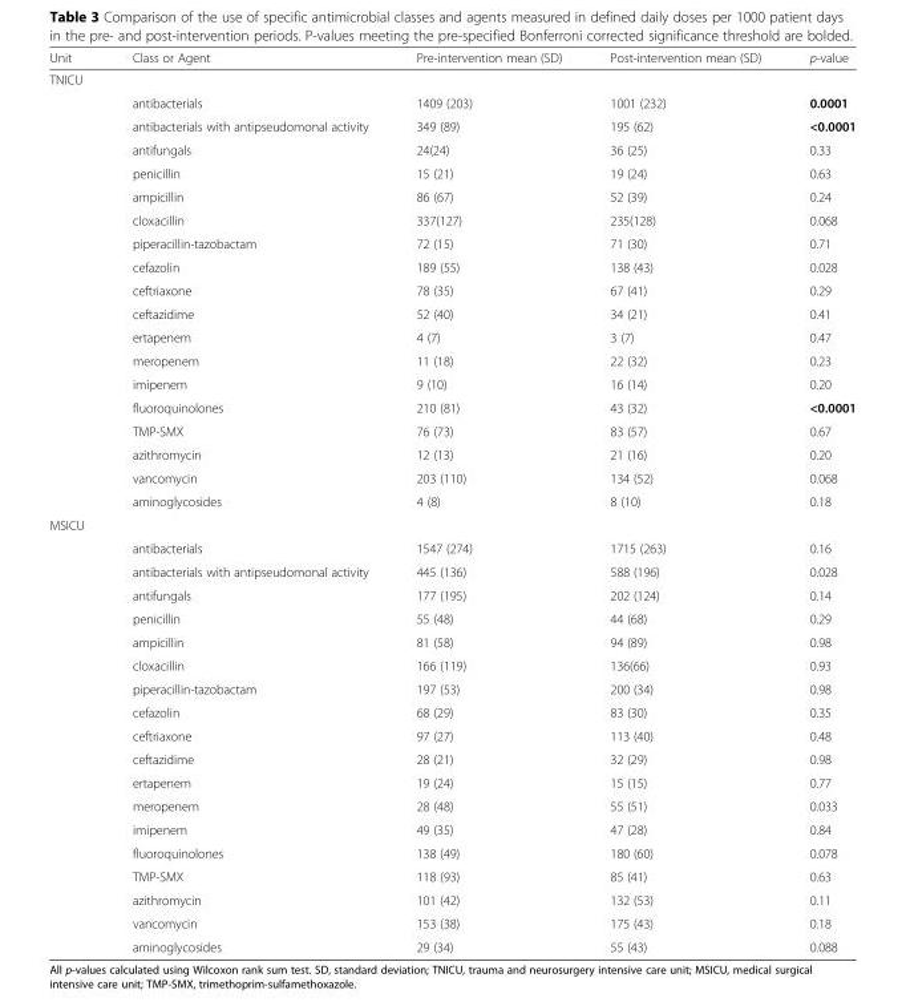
<table><thead><tr><td>Unit</td><td>Class or Agent</td><td>Pre-intervention mean (SD)</td><td>Post-intervention mean (SD)</td><td>p-value</td></tr></thead><tbody><tr><td colspan="5">TNICU</td></tr><tr><td></td><td>antibacterials</td><td>1409 (203)</td><td>1001 (232)</td><td>0.0001</td></tr><tr><td></td><td>antibacterials with antipseudomonal activity</td><td>349 (89)</td><td>195 (62)</td><td>&lt;0.0001</td></tr><tr><td></td><td>antifungals</td><td>24(24)</td><td>36 (25)</td><td>0.33</td></tr><tr><td></td><td>penicillin</td><td>15 (21)</td><td>19 (24)</td><td>0.63</td></tr><tr><td></td><td>ampicillin</td><td>86 (67)</td><td>52 (39)</td><td>0.24</td></tr><tr><td></td><td>cloxacillin</td><td>337(127)</td><td>235(128)</td><td>0.068</td></tr><tr><td></td><td>piperacillin-tazobactam</td><td>72 (15)</td><td>71 (30)</td><td>0.71</td></tr><tr><td></td><td>cefazolin</td><td>189 (55)</td><td>138 (43)</td><td>0.028</td></tr><tr><td></td><td>ceftriaxone</td><td>78 (35)</td><td>67 (41)</td><td>0.29</td></tr><tr><td></td><td>ceftazidime</td><td>52 (40)</td><td>34 (21)</td><td>0.41</td></tr><tr><td></td><td>ertapenem</td><td>4 (7)</td><td>3 (7)</td><td>0.47</td></tr><tr><td></td><td>meropenem</td><td>11 (18)</td><td>22 (32)</td><td>0.23</td></tr><tr><td></td><td>imipenem</td><td>9 (10)</td><td>16 (14)</td><td>0.20</td></tr><tr><td></td><td>fluoroquinolones</td><td>210 (81)</td><td>43 (32)</td><td>&lt;0.0001</td></tr><tr><td></td><td>TMP-SMX</td><td>76 (73)</td><td>83 (57)</td><td>0.67</td></tr><tr><td></td><td>azithromycin</td><td>12 (13)</td><td>21 (16)</td><td>0.20</td></tr><tr><td></td><td>vancomycin</td><td>203 (110)</td><td>134 (52)</td><td>0.068</td></tr><tr><td></td><td>aminoglycosides</td><td>4 (8)</td><td>8 (10)</td><td>0.18</td></tr><tr><td colspan="5">MSICU</td></tr><tr><td></td><td>antibacterials</td><td>1547 (274)</td><td>1715 (263)</td><td>0.16</td></tr><tr><td></td><td>antibacterials with antipseudomonal activity</td><td>445 (136)</td><td>588 (196)</td><td>0.028</td></tr><tr><td></td><td>antifungals</td><td>177 (195)</td><td>202 (124)</td><td>0.14</td></tr><tr><td></td><td>penicillin</td><td>55 (48)</td><td>44 (68)</td><td>0.29</td></tr><tr><td></td><td>ampicillin</td><td>81 (58)</td><td>94 (89)</td><td>0.98</td></tr><tr><td></td><td>cloxacillin</td><td>166 (119)</td><td>136(66)</td><td>0.93</td></tr><tr><td></td><td>piperacillin-tazobactam</td><td>197 (53)</td><td>200 (34)</td><td>0.98</td></tr><tr><td></td><td>cefazolin</td><td>68 (29)</td><td>83 (30)</td><td>0.35</td></tr><tr><td></td><td>ceftriaxone</td><td>97 (27)</td><td>113 (40)</td><td>0.48</td></tr><tr><td></td><td>ceftazidime</td><td>28 (21)</td><td>32 (29)</td><td>0.98</td></tr><tr><td></td><td>ertapenem</td><td>19 (24)</td><td>15 (15)</td><td>0.77</td></tr><tr><td></td><td>meropenem</td><td>28 (48)</td><td>55 (51)</td><td>0.033</td></tr><tr><td></td><td>imipenem</td><td>49 (35)</td><td>47 (28)</td><td>0.84</td></tr><tr><td></td><td>fluoroquinolones</td><td>138 (49)</td><td>180 (60)</td><td>0.078</td></tr><tr><td></td><td>TMP-SMX</td><td>118 (93)</td><td>85 (41)</td><td>0.63</td></tr><tr><td></td><td>azithromycin</td><td>101 (42)</td><td>132 (53)</td><td>0.11</td></tr><tr><td></td><td>vancomycin</td><td>153 (38)</td><td>175 (43)</td><td>0.18</td></tr><tr><td></td><td>aminoglycosides</td><td>29 (34)</td><td>55 (43)</td><td>0.088</td></tr></tbody></table>